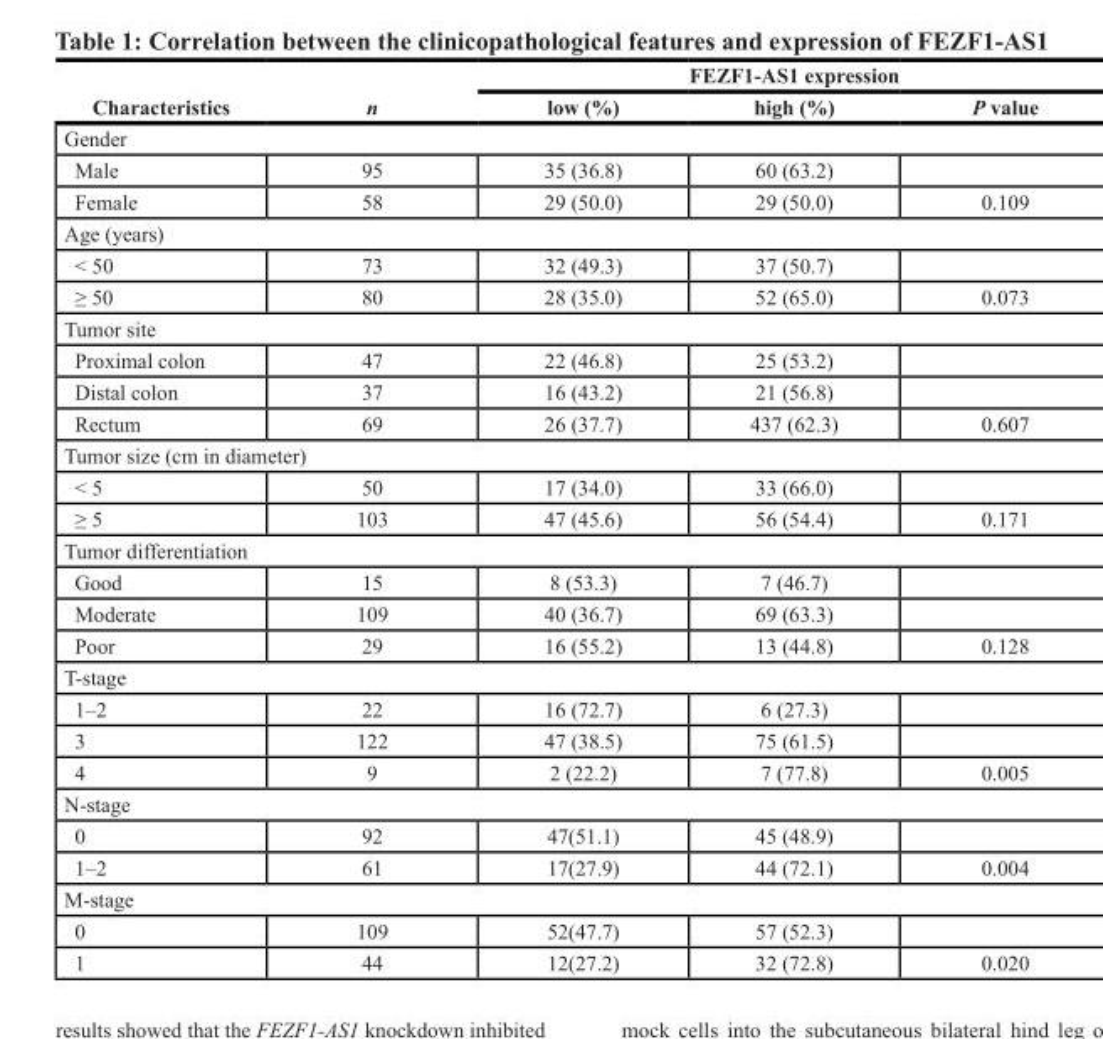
<table><thead><tr><td rowspan="2">Characteristics</td><td rowspan="2">n</td><td colspan="3">FEZF1-AS1 expression</td></tr><tr><td>low (%)</td><td>high (%)</td><td>P value</td></tr></thead><tbody><tr><td colspan="5">Gender</td></tr><tr><td>Male</td><td>95</td><td>35 (36.8)</td><td>60 (63.2)</td><td></td></tr><tr><td>Female</td><td>58</td><td>29 (50.0)</td><td>29 (50.0)</td><td>0.109</td></tr><tr><td colspan="5">Age (years)</td></tr><tr><td>&lt; 50</td><td>73</td><td>32 (49.3)</td><td>37 (50.7)</td><td></td></tr><tr><td>≥ 50</td><td>80</td><td>28 (35.0)</td><td>52 (65.0)</td><td>0.073</td></tr><tr><td colspan="5">Tumor site</td></tr><tr><td>Proximal colon</td><td>47</td><td>22 (46.8)</td><td>25 (53.2)</td><td></td></tr><tr><td>Distal colon</td><td>37</td><td>16 (43.2)</td><td>21 (56.8)</td><td></td></tr><tr><td>Rectum</td><td>69</td><td>26 (37.7)</td><td>437 (62.3)</td><td>0.607</td></tr><tr><td colspan="5">Tumor size (cm in diameter)</td></tr><tr><td>&lt; 5</td><td>50</td><td>17 (34.0)</td><td>33 (66.0)</td><td></td></tr><tr><td>≥ 5</td><td>103</td><td>47 (45.6)</td><td>56 (54.4)</td><td>0.171</td></tr><tr><td colspan="5">Tumor differentiation</td></tr><tr><td>Good</td><td>15</td><td>8 (53.3)</td><td>7 (46.7)</td><td></td></tr><tr><td>Moderate</td><td>109</td><td>40 (36.7)</td><td>69 (63.3)</td><td></td></tr><tr><td>Poor</td><td>29</td><td>16 (55.2)</td><td>13 (44.8)</td><td>0.128</td></tr><tr><td colspan="5">T-stage</td></tr><tr><td>1–2</td><td>22</td><td>16 (72.7)</td><td>6 (27.3)</td><td></td></tr><tr><td>3</td><td>122</td><td>47 (38.5)</td><td>75 (61.5)</td><td></td></tr><tr><td>4</td><td>9</td><td>2 (22.2)</td><td>7 (77.8)</td><td>0.005</td></tr><tr><td colspan="5">N-stage</td></tr><tr><td>0</td><td>92</td><td>47(51.1)</td><td>45 (48.9)</td><td></td></tr><tr><td>1–2</td><td>61</td><td>17(27.9)</td><td>44 (72.1)</td><td>0.004</td></tr><tr><td colspan="5">M-stage</td></tr><tr><td>0</td><td>109</td><td>52(47.7)</td><td>57 (52.3)</td><td></td></tr><tr><td>1</td><td>44</td><td>12(27.2)</td><td>32 (72.8)</td><td>0.020</td></tr></tbody></table>